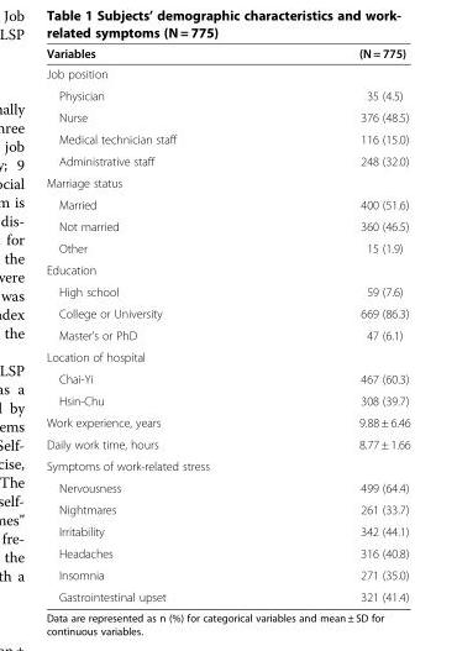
<table><thead><tr><td>Variables</td><td>(N = 775)</td></tr></thead><tbody><tr><td colspan="2">Job position</td></tr><tr><td>Physician</td><td>35 (4.5)</td></tr><tr><td>Nurse</td><td>376 (48.5)</td></tr><tr><td>Medical technician staff</td><td>116 (15.0)</td></tr><tr><td>Administrative staff</td><td>248 (32.0)</td></tr><tr><td colspan="2">Marriage status</td></tr><tr><td>Married</td><td>400 (51.6)</td></tr><tr><td>Not married</td><td>360 (46.5)</td></tr><tr><td>Other</td><td>15 (1.9)</td></tr><tr><td colspan="2">Education</td></tr><tr><td>High school</td><td>59 (7.6)</td></tr><tr><td>College or University</td><td>669 (86.3)</td></tr><tr><td>Master’s or PhD</td><td>47 (6.1)</td></tr><tr><td colspan="2">Location of hospital</td></tr><tr><td>Chai-Yi</td><td>467 (60.3)</td></tr><tr><td>Hsin-Chu</td><td>308 (39.7)</td></tr><tr><td>Work experience, years</td><td>9.88 ± 6.46</td></tr><tr><td>Daily work time, hours</td><td>8.77 ± 1.66</td></tr><tr><td colspan="2">Symptoms of work-related stress</td></tr><tr><td>Nervousness</td><td>499 (64.4)</td></tr><tr><td>Nightmares</td><td>261 (33.7)</td></tr><tr><td>Irritability</td><td>342 (44.1)</td></tr><tr><td>Headaches</td><td>316 (40.8)</td></tr><tr><td>Insomnia</td><td>271 (35.0)</td></tr><tr><td>Gastrointestinal upset</td><td>321 (41.4)</td></tr></tbody></table>